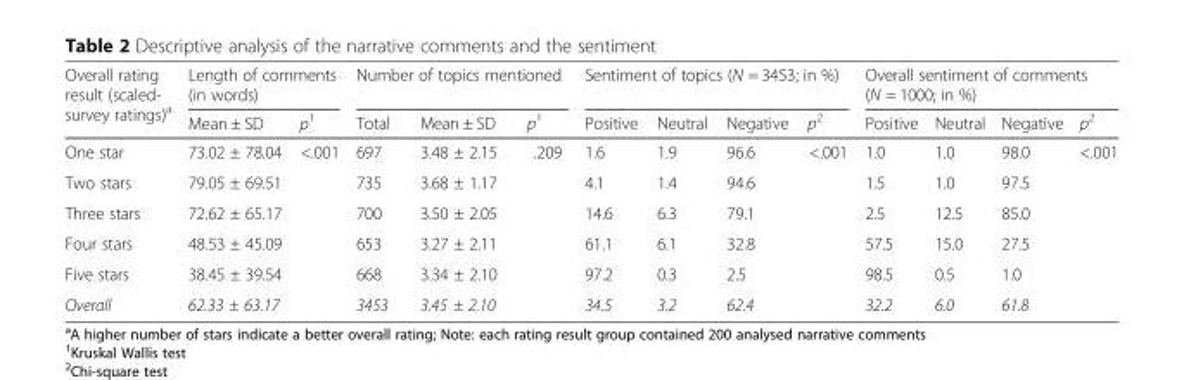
<table><thead><tr><td rowspan="2">Overall rating result (scaled- survey ratings)<sup>a</sup></td><td colspan="2">Length of comments (in words)</td><td colspan="3">Number of topics mentioned</td><td colspan="4">Sentiment of topics (N = 3453; in %)</td><td colspan="4">Overall sentiment of comments (N = 1000; in %)</td></tr><tr><td>Mean ± SD</td><td>p<sup>1</sup></td><td>Total</td><td>Mean ± SD</td><td>p<sup>1</sup></td><td>Positive</td><td>Neutral</td><td>Negative</td><td>p<sup>2</sup></td><td>Positive</td><td>Neutral</td><td>Negative</td><td>p<sup>2</sup></td></tr></thead><tbody><tr><td>One star</td><td>73.02 ± 78.04</td><td>&lt;.001</td><td>697</td><td>3.48 ± 2.15</td><td>.209</td><td>1.6</td><td>1.9</td><td>96.6</td><td>&lt;.001</td><td>1.0</td><td>1.0</td><td>98.0</td><td>&lt;.001</td></tr><tr><td>Two stars</td><td>79.05 ± 69.51</td><td></td><td>735</td><td>3.68 ± 1.17</td><td></td><td>4.1</td><td>1.4</td><td>94.6</td><td></td><td>1.5</td><td>1.0</td><td>97.5</td><td></td></tr><tr><td>Three stars</td><td>72.62 ± 65.17</td><td></td><td>700</td><td>3.50 ± 2.05</td><td></td><td>14.6</td><td>6.3</td><td>79.1</td><td></td><td>2.5</td><td>12.5</td><td>85.0</td><td></td></tr><tr><td>Four stars</td><td>48.53 ± 45.09</td><td></td><td>653</td><td>3.27 ± 2.11</td><td></td><td>61.1</td><td>6.1</td><td>32.8</td><td></td><td>57.5</td><td>15.0</td><td>27.5</td><td></td></tr><tr><td>Five stars</td><td>38.45 ± 39.54</td><td></td><td>668</td><td>3.34 ± 2.10</td><td></td><td>97.2</td><td>0.3</td><td>2.5</td><td></td><td>98.5</td><td>0.5</td><td>1.0</td><td></td></tr><tr><td>Overall</td><td>62.33 ± 63.17</td><td></td><td>3453</td><td>3.45 ± 2.10</td><td></td><td>34.5</td><td>3.2</td><td>62.4</td><td></td><td>32.2</td><td>6.0</td><td>61.8</td><td></td></tr></tbody></table>